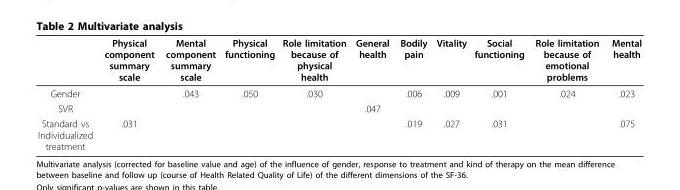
<table><thead><tr><td></td><td>Physical component summary scale</td><td>Mental component summary scale</td><td>Physical functioning</td><td>Role limitation because of physical health</td><td>General health</td><td>Bodily pain</td><td>Vitality</td><td>Social functioning</td><td>Role limitation because of emotional problems</td><td>Mental health</td></tr></thead><tbody><tr><td>Gender</td><td></td><td>.043</td><td>.050</td><td>.030</td><td></td><td>.006</td><td>.009</td><td>.001</td><td>.024</td><td>.023</td></tr><tr><td>SVR</td><td></td><td></td><td></td><td></td><td>.047</td><td></td><td></td><td></td><td></td><td></td></tr><tr><td>Standard vs Individualized treatment</td><td>.031</td><td></td><td></td><td></td><td></td><td>.019</td><td>.027</td><td>.031</td><td></td><td>.075</td></tr></tbody></table>